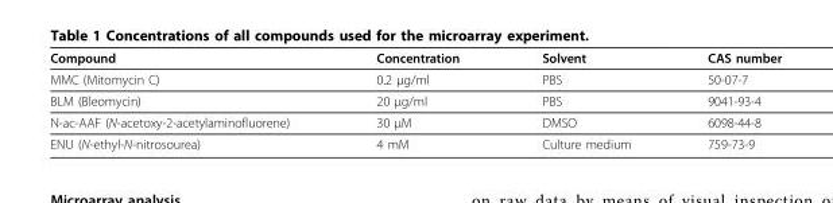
<table><thead><tr><td>Compound</td><td>Concentration</td><td>Solvent</td><td>CAS number</td></tr></thead><tbody><tr><td>MMC (Mitomycin C)</td><td>0.2 μg/ml</td><td>PBS</td><td>50-07-7</td></tr><tr><td>BLM (Bleomycin)</td><td>20 μg/ml</td><td>PBS</td><td>9041-93-4</td></tr><tr><td>N-ac-AAF (N-acetoxy-2-acetylaminofluorene)</td><td>30 μM</td><td>DMSO</td><td>6098-44-8</td></tr><tr><td>ENU (N-ethyl-N-nitrosourea)</td><td>4 mM</td><td>Culture medium</td><td>759-73-9</td></tr></tbody></table>